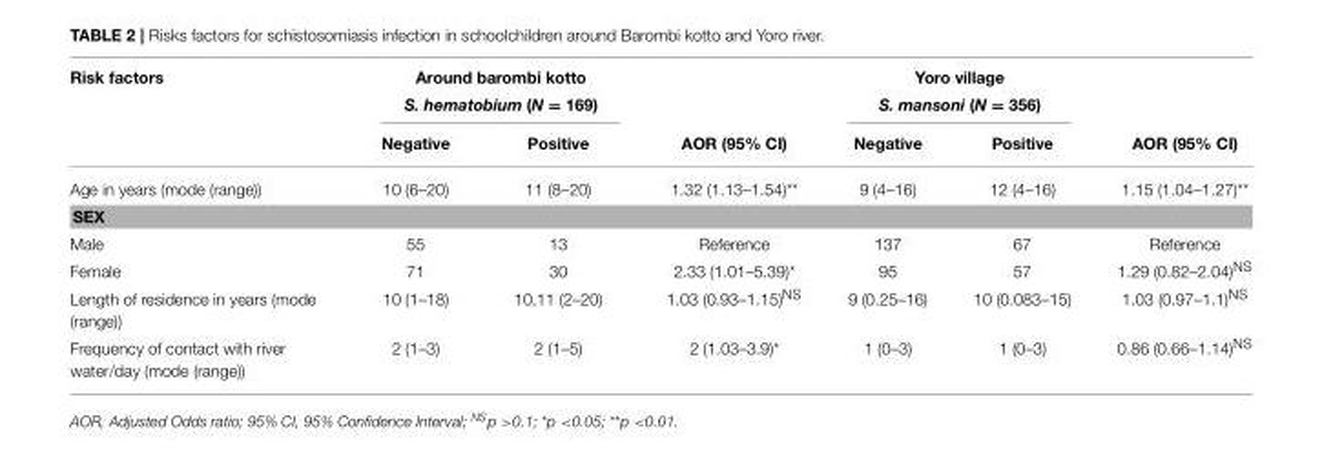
<table><thead><tr><td rowspan="2">Risk factors</td><td colspan="2">Around barombi kotto S. hematobium (N = 169)</td><td rowspan="2">AOR (95% CI)</td><td colspan="2">Yoro village S. mansoni (N = 356)</td><td rowspan="2">AOR (95% CI)</td></tr><tr><td>Negative</td><td>Positive</td><td>Negative</td><td>Positive</td></tr></thead><tbody><tr><td>Age in years (mode (range))</td><td>10 (6–20)</td><td>11 (8–20)</td><td>1.32 (1.13–1.54)**</td><td>9 (4–16)</td><td>12 (4–16)</td><td>1.15 (1.04–1.27)**</td></tr><tr><td colspan="7">SEX</td></tr><tr><td>Male</td><td>55</td><td>13</td><td>Reference</td><td>137</td><td>67</td><td>Reference</td></tr><tr><td>Female</td><td>71</td><td>30</td><td>2.33 (1.01–5.39)*</td><td>95</td><td>57</td><td>1.29 (0.82–2.04)<sup>NS</sup></td></tr><tr><td>Length of residence in years (mode (range))</td><td>10 (1–18)</td><td>10,11 (2–20)</td><td>1.03 (0.93–1.15)<sup>NS</sup></td><td>9 (0.25–16)</td><td>10 (0.083–15)</td><td>1.03 (0.97–1.1)<sup>NS</sup></td></tr><tr><td>Frequency of contact with river water/day (mode (range))</td><td>2 (1–3)</td><td>2 (1–5)</td><td>2 (1.03–3.9)*</td><td>1 (0–3)</td><td>1 (0–3)</td><td>0.86 (0.66–1.14)<sup>NS</sup></td></tr></tbody></table>